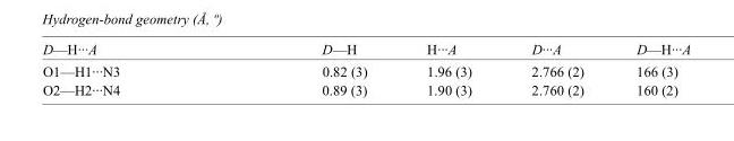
<table><tbody><tr><td>D—H···A</td><td>D—H</td><td>H···A</td><td>D···A</td><td>D—H···A</td></tr><tr><td>O1—H1···N3</td><td>0.82 (3)</td><td>1.96 (3)</td><td>2.766 (2)</td><td>166 (3)</td></tr><tr><td>O2—H2···N4</td><td>0.89 (3)</td><td>1.90 (3)</td><td>2.760 (2)</td><td>160 (2)</td></tr></tbody></table>